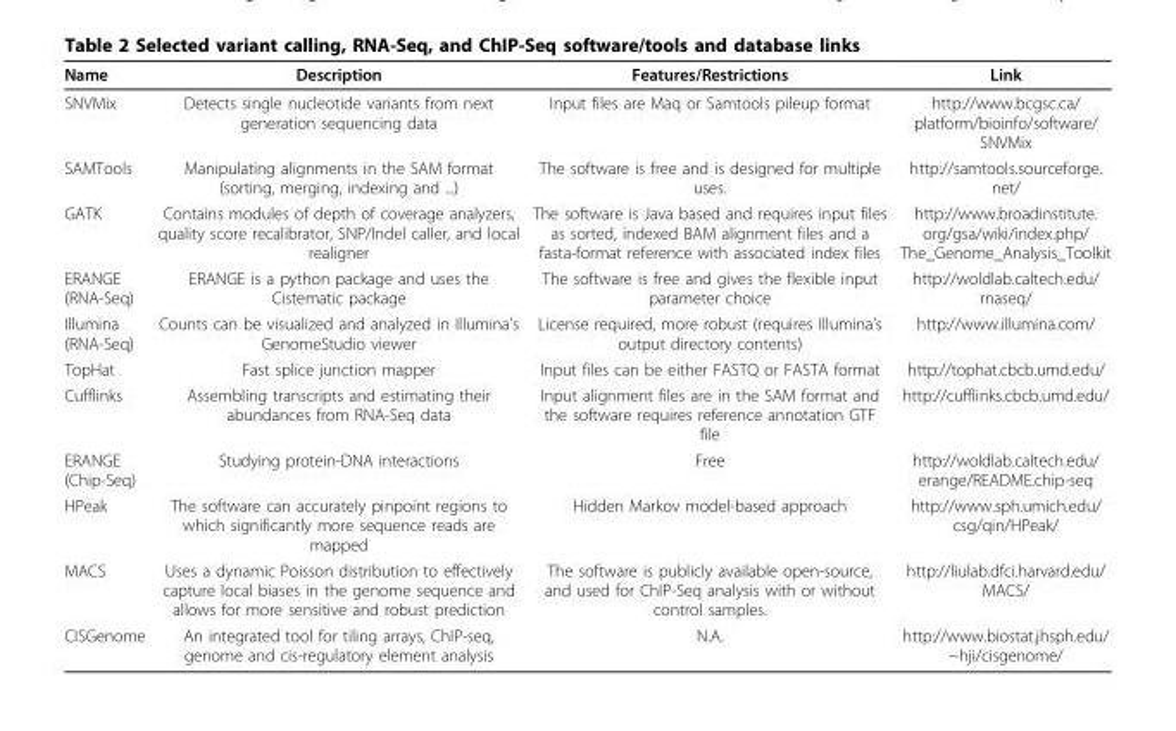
<table><thead><tr><td>Name</td><td>Description</td><td>Features/Restrictions</td><td>Link</td></tr></thead><tbody><tr><td>SNVMix</td><td>Detects single nucleotide variants from next generation sequencing data</td><td>Input files are Maq or Samtools pileup format</td><td>http://www.bcgsc.ca/ platform/bioinfo/software/ SNVMix</td></tr><tr><td>SAMTools</td><td>Manipulating alignments in the SAM format (sorting, merging, indexing and ...)</td><td>The software is free and is designed for multiple uses.</td><td>http://samtools.sourceforge. net/</td></tr><tr><td>GATK</td><td>Contains modules of depth of coverage analyzers, quality score recalibrator, SNP/Indel caller, and local realigner</td><td>The software is Java based and requires input files as sorted, indexed BAM alignment files and a fasta-format reference with associated index files</td><td>http://www.broadinstitute. org/gsa/wiki/index.php/ The_Genome_Analysis_Toolkit</td></tr><tr><td>ERANGE (RNA-Seq)</td><td>ERANGE is a python package and uses the Cistematic package</td><td>The software is free and gives the flexible input parameter choice</td><td>http://woldlab.caltech.edu/ rnaseq/</td></tr><tr><td>Illumina (RNA-Seq)</td><td>Counts can be visualized and analyzed in Illumina’s GenomeStudio viewer</td><td>License required, more robust (requires Illumina’s output directory contents)</td><td>http://www.illumina.com/</td></tr><tr><td>TopHat</td><td>Fast splice junction mapper</td><td>Input files can be either FASTQ or FASTA format</td><td>http://tophat.cbcb.umd.edu/</td></tr><tr><td>Cufflinks</td><td>Assembling transcripts and estimating their abundances from RNA-Seq data</td><td>Input alignment files are in the SAM format and the software requires reference annotation GTF file</td><td>http://cufflinks.cbcb.umd.edu/</td></tr><tr><td>ERANGE (Chip-Seq)</td><td>Studying protein-DNA interactions</td><td>Free</td><td>http://woldlab.caltech.edu/ erange/README.chip-seq</td></tr><tr><td>HPeak</td><td>The software can accurately pinpoint regions to which significantly more sequence reads are mapped</td><td>Hidden Markov model-based approach</td><td>http://www.sph.umich.edu/ csg/qin/HPeak/</td></tr><tr><td>MACS</td><td>Uses a dynamic Poisson distribution to effectively capture local biases in the genome sequence and allows for more sensitive and robust prediction</td><td>The software is publicly available open-source, and used for ChIP-Seq analysis with or without control samples.</td><td>http://liulab.dfci.harvard.edu/ MACS/</td></tr><tr><td>CISGenome</td><td>An integrated tool for tiling arrays, ChIP-seq, genome and cis-regulatory element analysis</td><td>N.A.</td><td>http://www.biostat.jhsph.edu/ ~hji/cisgenome/</td></tr></tbody></table>